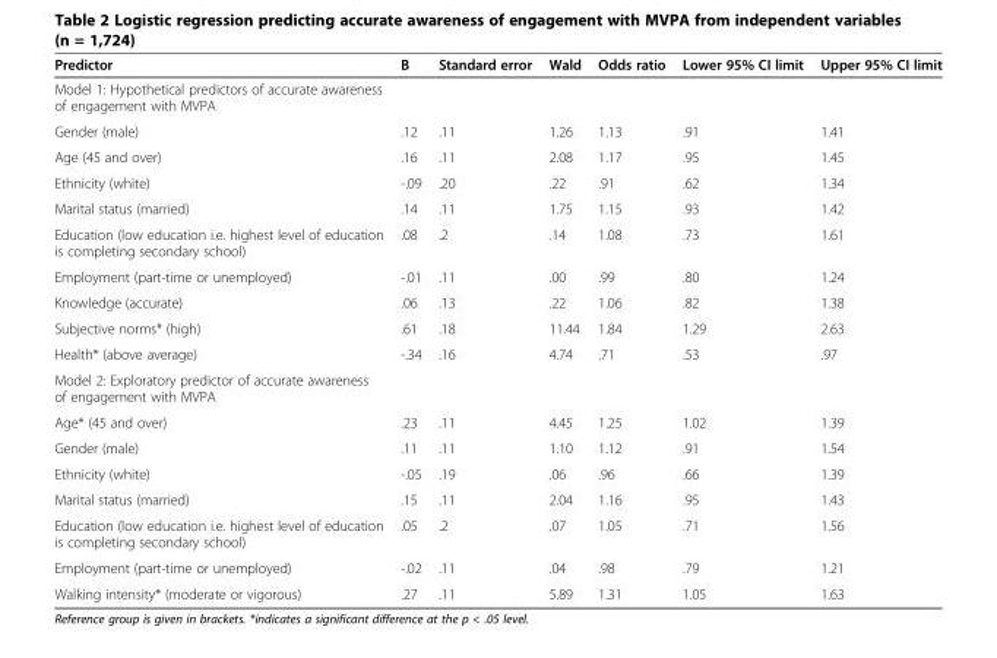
<table><thead><tr><td>Predictor</td><td>Β</td><td>Standard error</td><td>Wald</td><td>Odds ratio</td><td>Lower 95% CI limit</td><td>Upper 95% CI limit</td></tr></thead><tbody><tr><td colspan="7">Model 1: Hypothetical predictors of accurate awareness of engagement with MVPA</td></tr><tr><td>Gender (male)</td><td>.12</td><td>.11</td><td>1.26</td><td>1.13</td><td>.91</td><td>1.41</td></tr><tr><td>Age (45 and over)</td><td>.16</td><td>.11</td><td>2.08</td><td>1.17</td><td>.95</td><td>1.45</td></tr><tr><td>Ethnicity (white)</td><td>-.09</td><td>.20</td><td>.22</td><td>.91</td><td>.62</td><td>1.34</td></tr><tr><td>Marital status (married)</td><td>.14</td><td>.11</td><td>1.75</td><td>1.15</td><td>.93</td><td>1.42</td></tr><tr><td>Education (low education i.e. highest level of education is completing secondary school)</td><td>.08</td><td>.2</td><td>.14</td><td>1.08</td><td>.73</td><td>1.61</td></tr><tr><td>Employment (part-time or unemployed)</td><td>-.01</td><td>.11</td><td>.00</td><td>.99</td><td>.80</td><td>1.24</td></tr><tr><td>Knowledge (accurate)</td><td>.06</td><td>.13</td><td>.22</td><td>1.06</td><td>.82</td><td>1.38</td></tr><tr><td>Subjective norms* (high)</td><td>.61</td><td>.18</td><td>11.44</td><td>1.84</td><td>1.29</td><td>2.63</td></tr><tr><td>Health* (above average)</td><td>-.34</td><td>.16</td><td>4.74</td><td>.71</td><td>.53</td><td>.97</td></tr><tr><td colspan="7">Model 2: Exploratory predictor of accurate awareness of engagement with MVPA</td></tr><tr><td>Age* (45 and over)</td><td>.23</td><td>.11</td><td>4.45</td><td>1.25</td><td>1.02</td><td>1.39</td></tr><tr><td>Gender (male)</td><td>.11</td><td>.11</td><td>1.10</td><td>1.12</td><td>.91</td><td>1.54</td></tr><tr><td>Ethnicity (white)</td><td>-.05</td><td>.19</td><td>.06</td><td>.96</td><td>.66</td><td>1.39</td></tr><tr><td>Marital status (married)</td><td>.15</td><td>.11</td><td>2.04</td><td>1.16</td><td>.95</td><td>1.43</td></tr><tr><td>Education (low education i.e. highest level of education is completing secondary school)</td><td>.05</td><td>.2</td><td>.07</td><td>1.05</td><td>.71</td><td>1.56</td></tr><tr><td>Employment (part-time or unemployed)</td><td>-.02</td><td>.11</td><td>.04</td><td>.98</td><td>.79</td><td>1.21</td></tr><tr><td>Walking intensity* (moderate or vigorous)</td><td>.27</td><td>.11</td><td>5.89</td><td>1.31</td><td>1.05</td><td>1.63</td></tr></tbody></table>